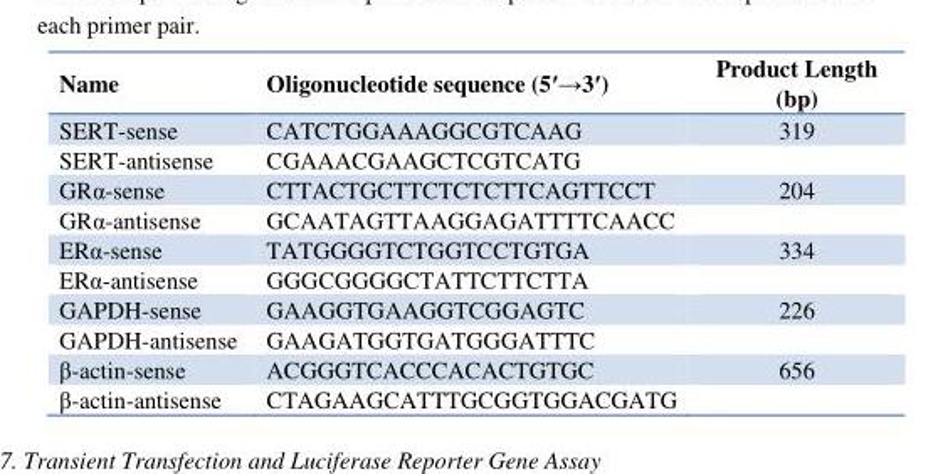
<table><thead><tr><td>Name</td><td>Oligonucleotide sequence (5′→3′)</td><td>Product Length (bp)</td></tr></thead><tbody><tr><td>SERT-sense</td><td>CATCTGGAAAGGCGTCAAG</td><td>319</td></tr><tr><td>SERT-antisense</td><td>CGAAACGAAGCTCGTCATG</td><td></td></tr><tr><td>GRα-sense</td><td>CTTACTGCTTCTCTCTTCAGTTCCT</td><td>204</td></tr><tr><td>GRα-antisense</td><td>GCAATAGTTAAGGAGATTTTCAACC</td><td></td></tr><tr><td>ERα-sense</td><td>TATGGGGTCTGGTCCTGTGA</td><td>334</td></tr><tr><td>ERα-antisense</td><td>GGGCGGGGCTATTCTTCTTA</td><td></td></tr><tr><td>GAPDH-sense</td><td>GAAGGTGAAGGTCGGAGTC</td><td>226</td></tr><tr><td>GAPDH-antisense</td><td>GAAGATGGTGATGGGATTTC</td><td></td></tr><tr><td>β-actin-sense</td><td>ACGGGTCACCCACACTGTGC</td><td>656</td></tr><tr><td>β-actin-antisense</td><td>CTAGAAGCATTTGCGGTGGACGATG</td><td></td></tr></tbody></table>